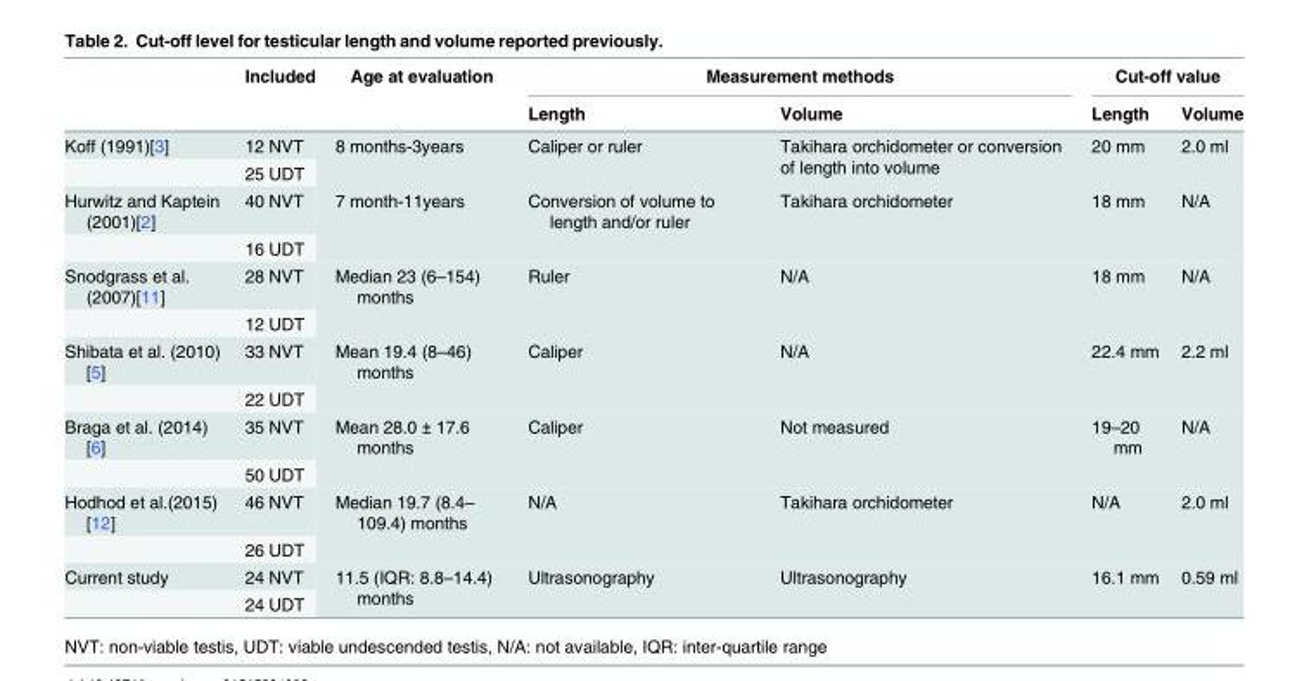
<table><thead><tr><td rowspan="2"></td><td rowspan="2">Included</td><td rowspan="2">Age at evaluation</td><td colspan="2">Measurement methods</td><td colspan="2">Cut-off value</td></tr><tr><td>Length</td><td>Volume</td><td>Length</td><td>Volume</td></tr></thead><tbody><tr><td rowspan="2">Koff (1991)[3]</td><td>12 NVT</td><td rowspan="2">8 months-3years</td><td rowspan="2">Caliper or ruler</td><td rowspan="2">Takihara orchidometer or conversion of length into volume</td><td rowspan="2">20 mm</td><td rowspan="2">2.0 ml</td></tr><tr><td>25 UDT</td></tr><tr><td rowspan="2">Hurwitz and Kaptein (2001)[2]</td><td>40 NVT</td><td rowspan="2">7 month-11years</td><td rowspan="2">Conversion of volume to length and/or ruler</td><td rowspan="2">Takihara orchidometer</td><td rowspan="2">18 mm</td><td rowspan="2">N/A</td></tr><tr><td>16 UDT</td></tr><tr><td rowspan="2">Snodgrass et al. (2007)[11]</td><td>28 NVT</td><td rowspan="2">Median 23 (6–154) months</td><td rowspan="2">Ruler</td><td rowspan="2">N/A</td><td rowspan="2">18 mm</td><td rowspan="2">N/A</td></tr><tr><td>12 UDT</td></tr><tr><td rowspan="2">Shibata et al. (2010) [5]</td><td>33 NVT</td><td rowspan="2">Mean 19.4 (8–46) months</td><td rowspan="2">Caliper</td><td rowspan="2">N/A</td><td rowspan="2">22.4 mm</td><td rowspan="2">2.2 ml</td></tr><tr><td>22 UDT</td></tr><tr><td rowspan="2">Braga et al. (2014) [6]</td><td>35 NVT</td><td rowspan="2">Mean 28.0 ± 17.6 months</td><td rowspan="2">Caliper</td><td rowspan="2">Not measured</td><td rowspan="2">19–20 mm</td><td rowspan="2">N/A</td></tr><tr><td>50 UDT</td></tr><tr><td rowspan="2">Hodhod et al.(2015) [12]</td><td>46 NVT</td><td rowspan="2">Median 19.7 (8.4– 109.4) months</td><td rowspan="2">N/A</td><td rowspan="2">Takihara orchidometer</td><td rowspan="2">N/A</td><td rowspan="2">2.0 ml</td></tr><tr><td>26 UDT</td></tr><tr><td rowspan="2">Current study</td><td>24 NVT</td><td rowspan="2">11.5 (IQR: 8.8–14.4) months</td><td rowspan="2">Ultrasonography</td><td rowspan="2">Ultrasonography</td><td rowspan="2">16.1 mm</td><td rowspan="2">0.59 ml</td></tr><tr><td>24 UDT</td></tr></tbody></table>